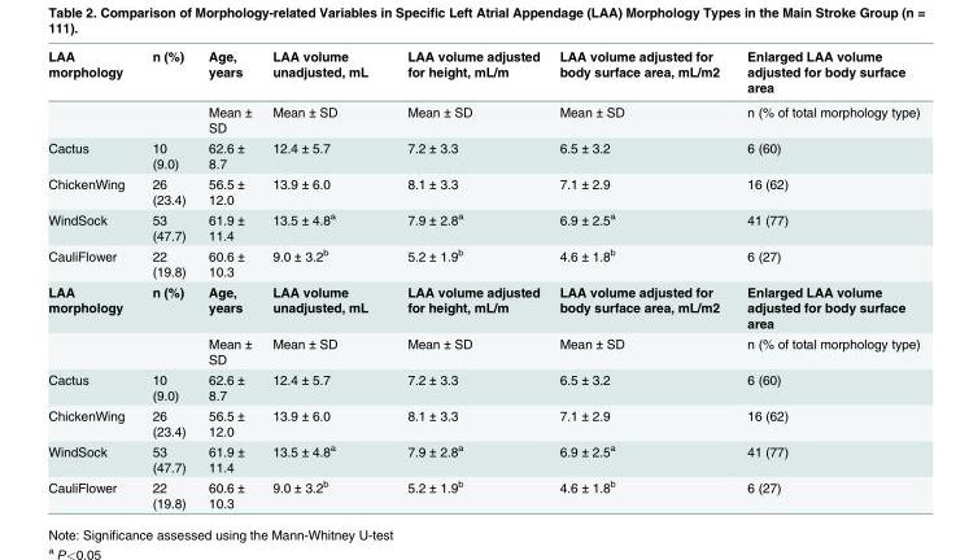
<table><thead><tr><td>LAA morphology</td><td>n (%)</td><td>Age, years</td><td>LAA volume unadjusted, mL</td><td>LAA volume adjusted for height, mL/m</td><td>LAA volume adjusted for body surface area, mL/m2</td><td>Enlarged LAA volume adjusted for body surface area</td></tr></thead><tbody><tr><td></td><td></td><td>Mean ± SD</td><td>Mean ± SD</td><td>Mean ± SD</td><td>Mean ± SD</td><td>n (% of total morphology type)</td></tr><tr><td>Cactus</td><td>10 (9.0)</td><td>62.6 ± 8.7</td><td>12.4 ± 5.7</td><td>7.2 ± 3.3</td><td>6.5 ± 3.2</td><td>6 (60)</td></tr><tr><td>ChickenWing</td><td>26 (23.4)</td><td>56.5 ± 12.0</td><td>13.9 ± 6.0</td><td>8.1 ± 3.3</td><td>7.1 ± 2.9</td><td>16 (62)</td></tr><tr><td>WindSock</td><td>53 (47.7)</td><td>61.9 ± 11.4</td><td>13.5 ± 4.8<sup>a</sup></td><td>7.9 ± 2.8<sup>a</sup></td><td>6.9 ± 2.5<sup>a</sup></td><td>41 (77)</td></tr><tr><td>CauliFlower</td><td>22 (19.8)</td><td>60.6 ± 10.3</td><td>9.0 ± 3.2<sup>b</sup></td><td>5.2 ± 1.9<sup>b</sup></td><td>4.6 ± 1.8<sup>b</sup></td><td>6 (27)</td></tr><tr><td rowspan="2">LAA morphology</td><td>n (%)</td><td>Age, years</td><td>LAA volume unadjusted, mL</td><td>LAA volume adjusted for height, mL/m</td><td>LAA volume adjusted for body surface area, mL/m2</td><td>Enlarged LAA volume adjusted for body surface area</td></tr><tr><td></td><td>Mean ± SD</td><td>Mean ± SD</td><td>Mean ± SD</td><td>Mean ± SD</td><td>n (% of total morphology type)</td></tr><tr><td>Cactus</td><td>10 (9.0)</td><td>62.6 ± 8.7</td><td>12.4 ± 5.7</td><td>7.2 ± 3.3</td><td>6.5 ± 3.2</td><td>6 (60)</td></tr><tr><td>ChickenWing</td><td>26 (23.4)</td><td>56.5 ± 12.0</td><td>13.9 ± 6.0</td><td>8.1 ± 3.3</td><td>7.1 ± 2.9</td><td>16 (62)</td></tr><tr><td>WindSock</td><td>53 (47.7)</td><td>61.9 ± 11.4</td><td>13.5 ± 4.8<sup>a</sup></td><td>7.9 ± 2.8<sup>a</sup></td><td>6.9 ± 2.5<sup>a</sup></td><td>41 (77)</td></tr><tr><td>CauliFlower</td><td>22 (19.8)</td><td>60.6 ± 10.3</td><td>9.0 ± 3.2<sup>b</sup></td><td>5.2 ± 1.9<sup>b</sup></td><td>4.6 ± 1.8<sup>b</sup></td><td>6 (27)</td></tr></tbody></table>